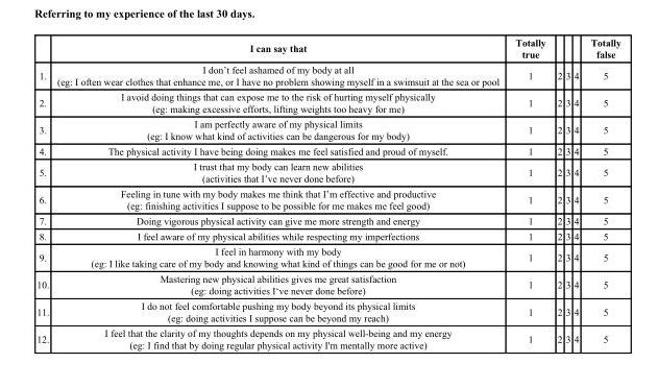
<table><thead><tr><td></td><td>I can say that</td><td>Totally true</td><td></td><td></td><td></td><td>Totally false</td></tr></thead><tbody><tr><td>1.</td><td>I don’t feel ashamed of my body at all (eg: I often wear clothes that enhance me, or I have no problem showing myself in a swimsuit at the sea or pool</td><td>1</td><td>2</td><td>3</td><td>4</td><td>5</td></tr><tr><td>2.</td><td>I avoid doing things that can expose me to the risk of hurting myself physically (eg: making excessive efforts, lifting weights too heavy for me)</td><td>1</td><td>2</td><td>3</td><td>4</td><td>5</td></tr><tr><td>3.</td><td>I am perfectly aware of my physical limits (eg: I know what kind of activities can be dangerous for my body)</td><td>1</td><td>2</td><td>3</td><td>4</td><td>5</td></tr><tr><td>4.</td><td>The physical activity I have being doing makes me feel satisfied and proud of myself.</td><td>1</td><td>2</td><td>3</td><td>4</td><td>5</td></tr><tr><td>5.</td><td>I trust that my body can learn new abilities (activities that I’ve never done before)</td><td>1</td><td>2</td><td>3</td><td>4</td><td>5</td></tr><tr><td>6.</td><td>Feeling in tune with my body makes me think that I’m effective and productive (eg: finishing activities I suppose to be possible for me makes me feel good)</td><td>1</td><td>2</td><td>3</td><td>4</td><td>5</td></tr><tr><td>7.</td><td>Doing vigorous physical activity can give me more strength and energy</td><td>1</td><td>2</td><td>3</td><td>4</td><td>5</td></tr><tr><td>8.</td><td>I feel aware of my physical abilities while respecting my imperfections</td><td>1</td><td>2</td><td>3</td><td>4</td><td>5</td></tr><tr><td>9.</td><td>I feel in harmony with my body (eg: I like taking care of my body and knowing what kind of things can be good for me or not)</td><td>1</td><td>2</td><td>3</td><td>4</td><td>5</td></tr><tr><td>10.</td><td>Mastering new physical abilities gives me great satisfaction (eg: doing activities I‘ve never done before)</td><td>1</td><td>2</td><td>3</td><td>4</td><td>5</td></tr><tr><td>11.</td><td>I do not feel comfortable pushing my body beyond its physical limits (eg: doing activities I suppose can be beyond my reach)</td><td>1</td><td>2</td><td>3</td><td>4</td><td>5</td></tr><tr><td>12.</td><td>I feel that the clarity of my thoughts depends on my physical well-being and my energy (eg: I find that by doing regular physical activity I&#x27;m mentally more active)</td><td>1</td><td>2</td><td>3</td><td>4</td><td>5</td></tr></tbody></table>